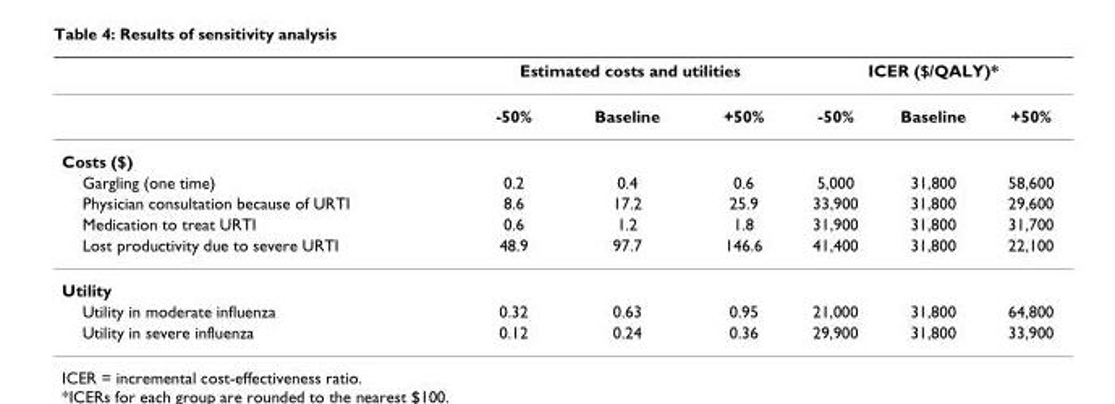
<table><thead><tr><td rowspan="2"></td><td colspan="3">Estimated costs and utilities</td><td colspan="3">ICER ($/QALY)*</td></tr><tr><td>-50%</td><td>Baseline</td><td>+50%</td><td>-50%</td><td>Baseline</td><td>+50%</td></tr></thead><tbody><tr><td colspan="7">Costs ($)</td></tr><tr><td>Gargling (one time)</td><td>0.2</td><td>0.4</td><td>0.6</td><td>5,000</td><td>31,800</td><td>58,600</td></tr><tr><td>Physician consultation because of URTI</td><td>8.6</td><td>17.2</td><td>25.9</td><td>33,900</td><td>31,800</td><td>29,600</td></tr><tr><td>Medication to treat URTI</td><td>0.6</td><td>1.2</td><td>1.8</td><td>31,900</td><td>31,800</td><td>31,700</td></tr><tr><td>Lost productivity due to severe URTI</td><td>48.9</td><td>97.7</td><td>146.6</td><td>41,400</td><td>31,800</td><td>22,100</td></tr><tr><td colspan="7">Utility</td></tr><tr><td>Utility in moderate influenza</td><td>0.32</td><td>0.63</td><td>0.95</td><td>21,000</td><td>31,800</td><td>64,800</td></tr><tr><td>Utility in severe influenza</td><td>0.12</td><td>0.24</td><td>0.36</td><td>29,900</td><td>31,800</td><td>33,900</td></tr></tbody></table>